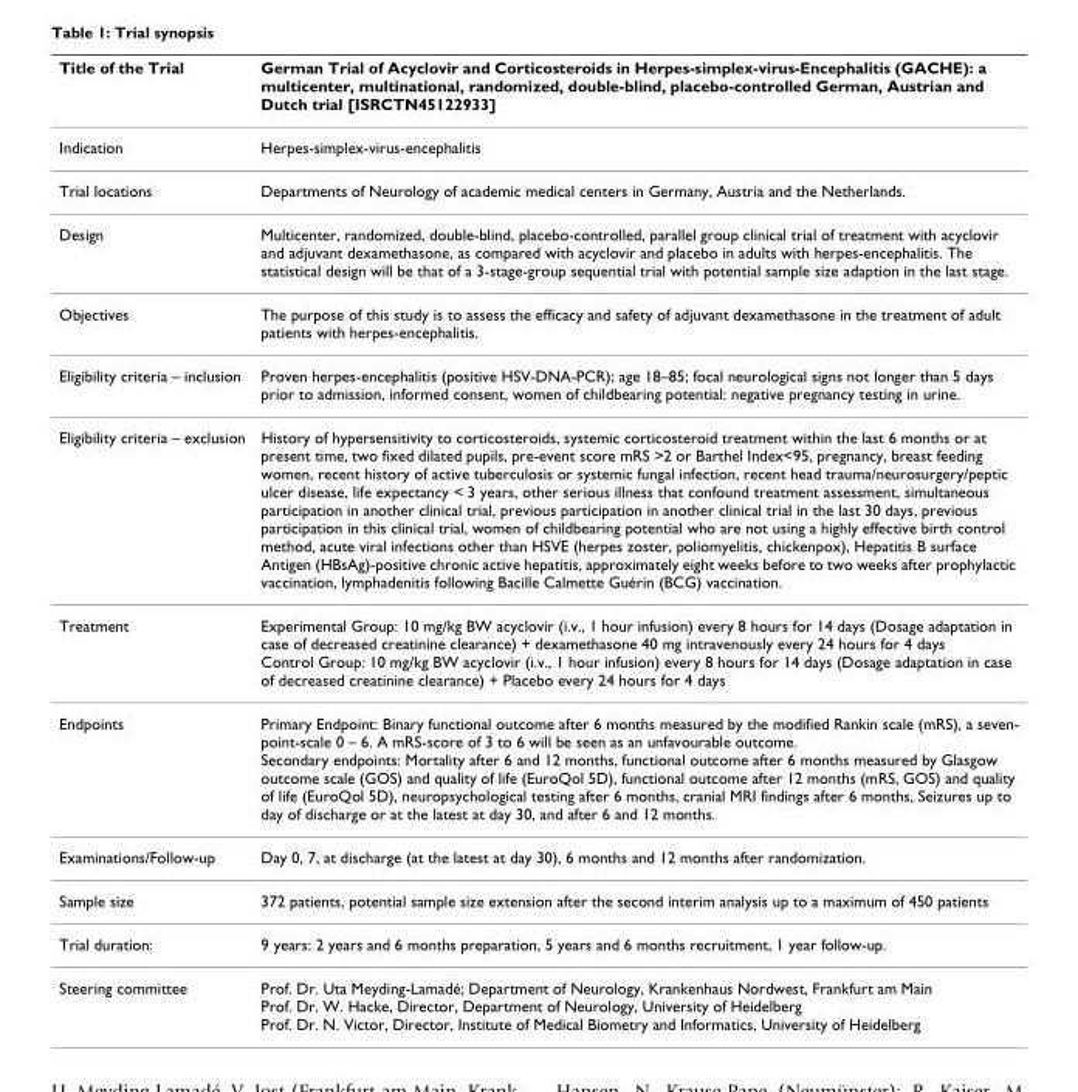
<table><thead><tr><td>Title of the Trial</td><td>German Trial of Acyclovir and Corticosteroids in Herpes-simplex-virus-Encephalitis (GACHE): a multicenter, multinational, randomized, double-blind, placebo-controlled German, Austrian and Dutch trial [ISRCTN45122933]</td></tr></thead><tbody><tr><td>Indication</td><td>Herpes-simplex-virus-encephalitis</td></tr><tr><td>Trial locations</td><td>Departments of Neurology of academic medical centers in Germany, Austria and the Netherlands.</td></tr><tr><td>Design</td><td>Multicenter, randomized, double-blind, placebo-controlled, parallel group clinical trial of treatment with acyclovir and adjuvant dexamethasone, as compared with acyclovir and placebo in adults with herpes-encephalitis. The statistical design will be that of a 3-stage-group sequential trial with potential sample size adaption in the last stage.</td></tr><tr><td>Objectives</td><td>The purpose of this study is to assess the efficacy and safety of adjuvant dexamethasone in the treatment of adult patients with herpes-encephalitis.</td></tr><tr><td>Eligibility criteria – inclusion</td><td>Proven herpes-encephalitis (positive HSV-DNA-PCR); age 18–85; focal neurological signs not longer than 5 days prior to admission, informed consent, women of childbearing potential: negative pregnancy testing in urine.</td></tr><tr><td>Eligibility criteria – exclusion</td><td>History of hypersensitivity to corticosteroids, systemic corticosteroid treatment within the last 6 months or at present time, two fixed dilated pupils, pre-event score mRS &gt;2 or Barthel Index&lt;95, pregnancy, breast feeding women, recent history of active tuberculosis or systemic fungal infection, recent head trauma/neurosurgery/peptic ulcer disease, life expectancy &lt; 3 years, other serious illness that confound treatment assessment, simultaneous participation in another clinical trial, previous participation in another clinical trial in the last 30 days, previous participation in this clinical trial, women of childbearing potential who are not using a highly effective birth control method, acute viral infections other than HSVE (herpes zoster, poliomyelitis, chickenpox), Hepatitis B surface Antigen (HBsAg)-positive chronic active hepatitis, approximately eight weeks before to two weeks after prophylactic vaccination, lymphadenitis following Bacille Calmette Guérin (BCG) vaccination.</td></tr><tr><td>Treatment</td><td>Experimental Group: 10 mg/kg BW acyclovir (i.v., 1 hour infusion) every 8 hours for 14 days (Dosage adaptation in case of decreased creatinine clearance) + dexamethasone 40 mg intravenously every 24 hours for 4 days Control Group: 10 mg/kg BW acyclovir (i.v., 1 hour infusion) every 8 hours for 14 days (Dosage adaptation in case of decreased creatinine clearance) + Placebo every 24 hours for 4 days</td></tr><tr><td>Endpoints</td><td>Primary Endpoint: Binary functional outcome after 6 months measured by the modified Rankin scale (mRS), a seven- point-scale 0 – 6. A mRS-score of 3 to 6 will be seen as an unfavourable outcome. Secondary endpoints: Mortality after 6 and 12 months, functional outcome after 6 months measured by Glasgow outcome scale (GOS) and quality of life (EuroQol 5D), functional outcome after 12 months (mRS, GOS) and quality of life (EuroQol 5D), neuropsychological testing after 6 months, cranial MRI findings after 6 months, Seizures up to day of discharge or at the latest at day 30, and after 6 and 12 months.</td></tr><tr><td>Examinations/Follow-up</td><td>Day 0, 7, at discharge (at the latest at day 30), 6 months and 12 months after randomization.</td></tr><tr><td>Sample size</td><td>372 patients, potential sample size extension after the second interim analysis up to a maximum of 450 patients</td></tr><tr><td>Trial duration:</td><td>9 years: 2 years and 6 months preparation, 5 years and 6 months recruitment, 1 year follow-up.</td></tr><tr><td>Steering committee</td><td>Prof. Dr. Uta Meyding-Lamadé; Department of Neurology, Krankenhaus Nordwest, Frankfurt am Main Prof. Dr. W. Hacke, Director, Department of Neurology, University of Heidelberg Prof. Dr. N. Victor, Director, Institute of Medical Biometry and Informatics, University of Heidelberg</td></tr></tbody></table>